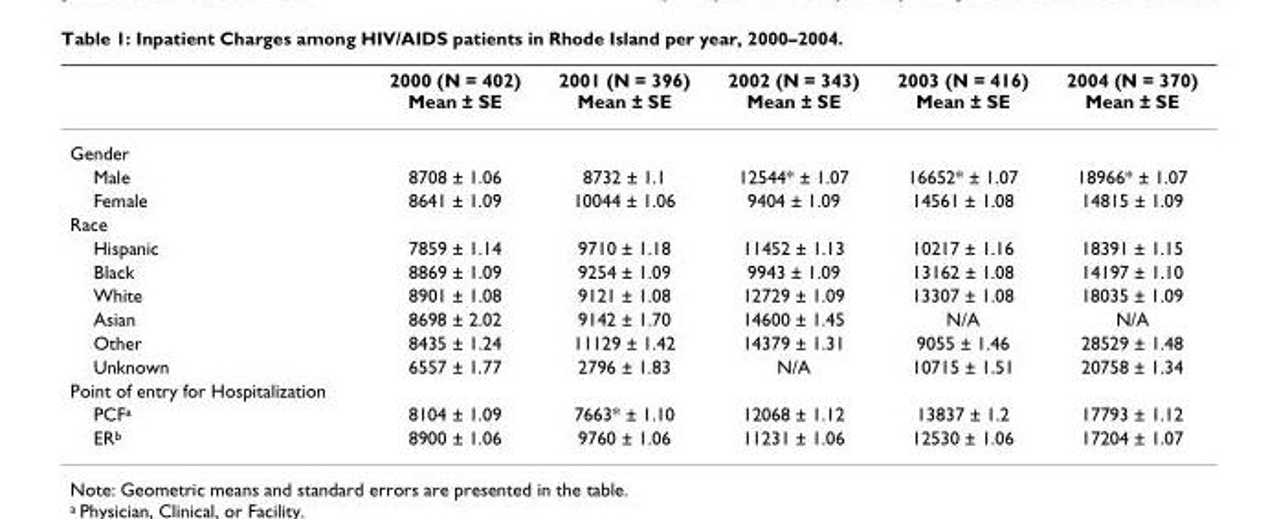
<table><thead><tr><td></td><td>2000 (N = 402) Mean ± SE</td><td>2001 (N = 396) Mean ± SE</td><td>2002 (N = 343) Mean ± SE</td><td>2003 (N = 416) Mean ± SE</td><td>2004 (N = 370) Mean ± SE</td></tr></thead><tbody><tr><td colspan="6">Gender</td></tr><tr><td>Male</td><td>8708 ± 1.06</td><td>8732 ± 1.1</td><td>12544* ± 1.07</td><td>16652* ± 1.07</td><td>18966* ± 1.07</td></tr><tr><td>Female</td><td>8641 ± 1.09</td><td>10044 ± 1.06</td><td>9404 ± 1.09</td><td>14561 ± 1.08</td><td>14815 ± 1.09</td></tr><tr><td colspan="6">Race</td></tr><tr><td>Hispanic</td><td>7859 ± 1.14</td><td>9710 ± 1.18</td><td>11452 ± 1.13</td><td>10217 ± 1.16</td><td>18391 ± 1.15</td></tr><tr><td>Black</td><td>8869 ± 1.09</td><td>9254 ± 1.09</td><td>9943 ± 1.09</td><td>13162 ± 1.08</td><td>14197 ± 1.10</td></tr><tr><td>White</td><td>8901 ± 1.08</td><td>9121 ± 1.08</td><td>12729 ± 1.09</td><td>13307 ± 1.08</td><td>18035 ± 1.09</td></tr><tr><td>Asian</td><td>8698 ± 2.02</td><td>9142 ± 1.70</td><td>14600 ± 1.45</td><td>N/A</td><td>N/A</td></tr><tr><td>Other</td><td>8435 ± 1.24</td><td>11129 ± 1.42</td><td>14379 ± 1.31</td><td>9055 ± 1.46</td><td>28529 ± 1.48</td></tr><tr><td>Unknown</td><td>6557 ± 1.77</td><td>2796 ± 1.83</td><td>N/A</td><td>10715 ± 1.51</td><td>20758 ± 1.34</td></tr><tr><td colspan="6">Point of entry for Hospitalization</td></tr><tr><td>PCF<sup>a</sup></td><td>8104 ± 1.09</td><td>7663* ± 1.10</td><td>12068 ± 1.12</td><td>13837 ± 1.2</td><td>17793 ± 1.12</td></tr><tr><td>ER<sup>b</sup></td><td>8900 ± 1.06</td><td>9760 ± 1.06</td><td>11231 ± 1.06</td><td>12530 ± 1.06</td><td>17204 ± 1.07</td></tr></tbody></table>